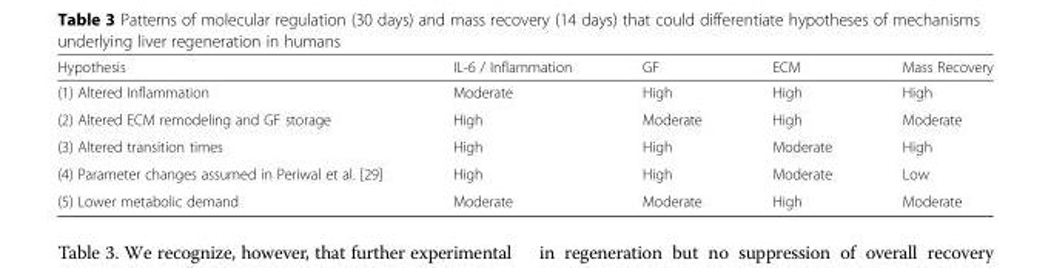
<table><thead><tr><td>Hypothesis</td><td>IL-6 / Inflammation</td><td>GF</td><td>ECM</td><td>Mass Recovery</td></tr></thead><tbody><tr><td>(1) Altered Inflammation</td><td>Moderate</td><td>High</td><td>High</td><td>High</td></tr><tr><td>(2) Altered ECM remodeling and GF storage</td><td>High</td><td>Moderate</td><td>High</td><td>Moderate</td></tr><tr><td>(3) Altered transition times</td><td>High</td><td>High</td><td>Moderate</td><td>High</td></tr><tr><td>(4) Parameter changes assumed in Periwal et al. [29]</td><td>High</td><td>High</td><td>Moderate</td><td>Low</td></tr><tr><td>(5) Lower metabolic demand</td><td>Moderate</td><td>Moderate</td><td>High</td><td>Moderate</td></tr></tbody></table>